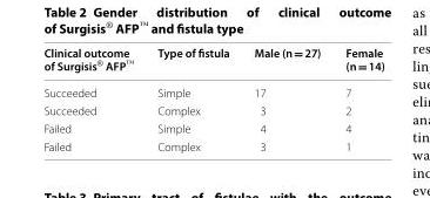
<table><thead><tr><td>Clinical outcome of Surgisis<sup>®</sup> AFP™</td><td>Type of fistula</td><td>Male (n = 27)</td><td>Female (n = 14)</td></tr></thead><tbody><tr><td>Succeeded</td><td>Simple</td><td>17</td><td>7</td></tr><tr><td>Succeeded</td><td>Complex</td><td>3</td><td>2</td></tr><tr><td>Failed</td><td>Simple</td><td>4</td><td>4</td></tr><tr><td>Failed</td><td>Complex</td><td>3</td><td>1</td></tr></tbody></table>